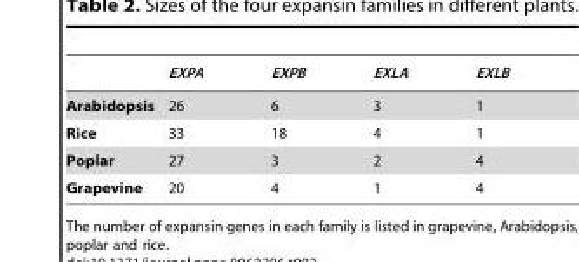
<table><thead><tr><td></td><td>EXPA</td><td>EXPB</td><td>EXLA</td><td>EXLB</td></tr></thead><tbody><tr><td>Arabidopsis</td><td>26</td><td>6</td><td>3</td><td>1</td></tr><tr><td>Rice</td><td>33</td><td>18</td><td>4</td><td>1</td></tr><tr><td>Poplar</td><td>27</td><td>3</td><td>2</td><td>4</td></tr><tr><td>Grapevine</td><td>20</td><td>4</td><td>1</td><td>4</td></tr></tbody></table>